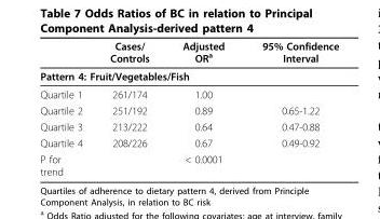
<table><thead><tr><td></td><td>Cases/ Controls</td><td>Adjusted OR<sup>a</sup></td><td>95% Confidence Interval</td></tr></thead><tbody><tr><td colspan="4">Pattern 4: Fruit/Vegetables/Fish</td></tr><tr><td>Quartile 1</td><td>261/174</td><td>1.00</td><td></td></tr><tr><td>Quartile 2</td><td>251/192</td><td>0.89</td><td>0.65-1.22</td></tr><tr><td>Quartile 3</td><td>213/222</td><td>0.64</td><td>0.47-0.88</td></tr><tr><td>Quartile 4</td><td>208/226</td><td>0.67</td><td>0.49-0.92</td></tr><tr><td>P for trend</td><td></td><td>&lt; 0.0001</td><td></td></tr></tbody></table>